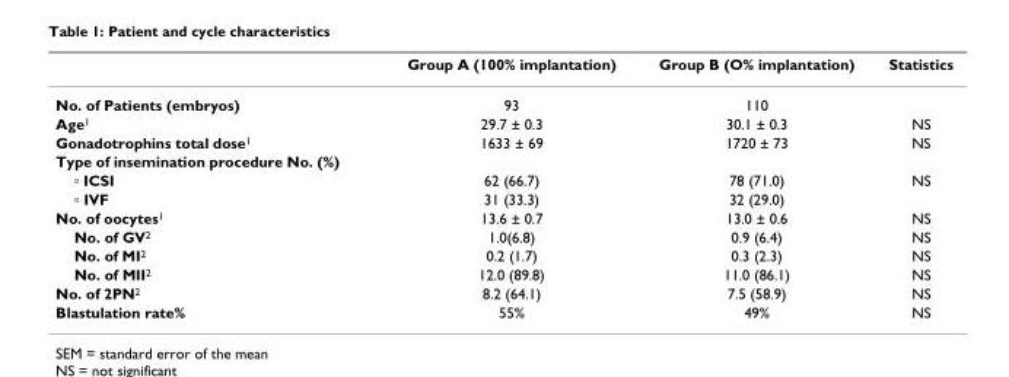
<table><thead><tr><td></td><td>Group A (100% implantation)</td><td>Group B (O% implantation)</td><td>Statistics</td></tr></thead><tbody><tr><td>No. of Patients (embryos)</td><td>93</td><td>110</td><td></td></tr><tr><td>Age<sup>1</sup></td><td>29.7 ± 0.3</td><td>30.1 ± 0.3</td><td>NS</td></tr><tr><td>Gonadotrophins total dose<sup>1</sup></td><td>1633 ± 69</td><td>1720 ± 73</td><td>NS</td></tr><tr><td colspan="4">Type of insemination procedure No. (%)</td></tr><tr><td>∘ ICSI</td><td>62 (66.7)</td><td>78 (71.0)</td><td>NS</td></tr><tr><td>∘ IVF</td><td>31 (33.3)</td><td>32 (29.0)</td><td></td></tr><tr><td>No. of oocytes<sup>1</sup></td><td>13.6 ± 0.7</td><td>13.0 ± 0.6</td><td>NS</td></tr><tr><td>No. of GV<sup>2</sup></td><td>1.0(6.8)</td><td>0.9 (6.4)</td><td>NS</td></tr><tr><td>No. of MI<sup>2</sup></td><td>0.2 (1.7)</td><td>0.3 (2.3)</td><td>NS</td></tr><tr><td>No. of MII<sup>2</sup></td><td>12.0 (89.8)</td><td>11.0 (86.1)</td><td>NS</td></tr><tr><td>No. of 2PN<sup>2</sup></td><td>8.2 (64.1)</td><td>7.5 (58.9)</td><td>NS</td></tr><tr><td>Blastulation rate%</td><td>55%</td><td>49%</td><td>NS</td></tr></tbody></table>